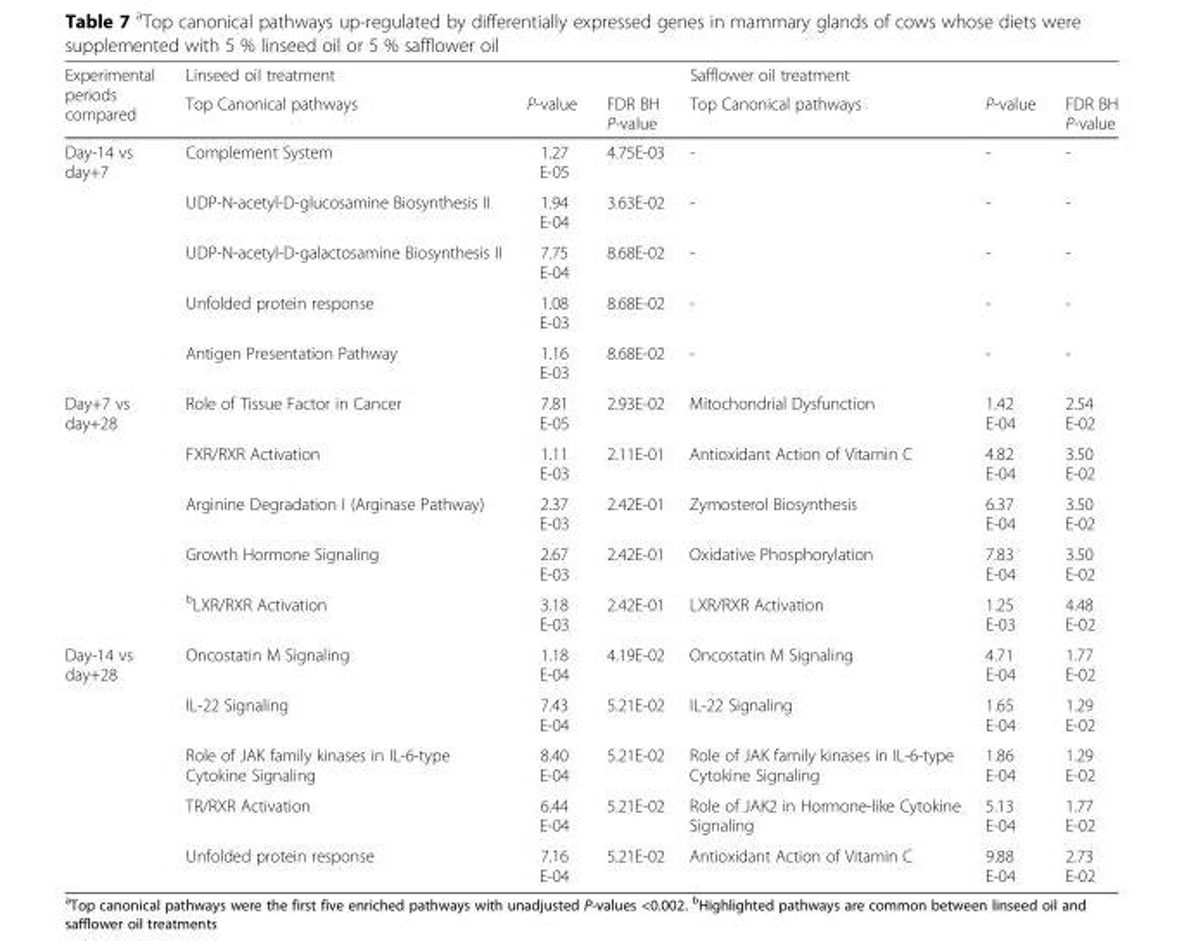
<table><thead><tr><td rowspan="2">Experimental periods compared</td><td rowspan="2">Linseed oil treatment Top Canonical pathways</td><td rowspan="2">P-value</td><td rowspan="2">FDR BH P-value</td><td rowspan="2">Safflower oil treatment Top Canonical pathways</td><td rowspan="2">P-value</td><td rowspan="2">FDR BH P-value</td></tr><tr></tr></thead><tbody><tr><td rowspan="5">Day-14 vs day+7</td><td>Complement System</td><td>1.27 E-05</td><td>4.75E-03</td><td>-</td><td>-</td><td>-</td></tr><tr><td>UDP-N-acetyl-D-glucosamine Biosynthesis II</td><td>1.94 E-04</td><td>3.63E-02</td><td>-</td><td>-</td><td>-</td></tr><tr><td>UDP-N-acetyl-D-galactosamine Biosynthesis II</td><td>7.75 E-04</td><td>8.68E-02</td><td>-</td><td>-</td><td>-</td></tr><tr><td>Unfolded protein response</td><td>1.08 E-03</td><td>8.68E-02</td><td>-</td><td>-</td><td>-</td></tr><tr><td>Antigen Presentation Pathway</td><td>1.16 E-03</td><td>8.68E-02</td><td>-</td><td>-</td><td>-</td></tr><tr><td rowspan="5">Day+7 vs day+28</td><td>Role of Tissue Factor in Cancer</td><td>7.81 E-05</td><td>2.93E-02</td><td>Mitochondrial Dysfunction</td><td>1.42 E-04</td><td>2.54 E-02</td></tr><tr><td>FXR/RXR Activation</td><td>1.11 E-03</td><td>2.11E-01</td><td>Antioxidant Action of Vitamin C</td><td>4.82 E-04</td><td>3.50 E-02</td></tr><tr><td>Arginine Degradation I (Arginase Pathway)</td><td>2.37 E-03</td><td>2.42E-01</td><td>Zymosterol Biosynthesis</td><td>6.37 E-04</td><td>3.50 E-02</td></tr><tr><td>Growth Hormone Signaling</td><td>2.67 E-03</td><td>2.42E-01</td><td>Oxidative Phosphorylation</td><td>7.83 E-04</td><td>3.50 E-02</td></tr><tr><td><sup>b</sup>LXR/RXR Activation</td><td>3.18 E-03</td><td>2.42E-01</td><td>LXR/RXR Activation</td><td>1.25 E-03</td><td>4.48 E-02</td></tr><tr><td rowspan="5">Day-14 vs day+28</td><td>Oncostatin M Signaling</td><td>1.18 E-04</td><td>4.19E-02</td><td>Oncostatin M Signaling</td><td>4.71 E-04</td><td>1.77 E-02</td></tr><tr><td>IL-22 Signaling</td><td>7.43 E-04</td><td>5.21E-02</td><td>IL-22 Signaling</td><td>1.65 E-04</td><td>1.29 E-02</td></tr><tr><td>Role of JAK family kinases in IL-6-type Cytokine Signaling</td><td>8.40 E-04</td><td>5.21E-02</td><td>Role of JAK family kinases in IL-6-type Cytokine Signaling</td><td>1.86 E-04</td><td>1.29 E-02</td></tr><tr><td>TR/RXR Activation</td><td>6.44 E-04</td><td>5.21E-02</td><td>Role of JAK2 in Hormone-like Cytokine Signaling</td><td>5.13 E-04</td><td>1.77 E-02</td></tr><tr><td>Unfolded protein response</td><td>7.16 E-04</td><td>5.21E-02</td><td>Antioxidant Action of Vitamin C</td><td>9.88 E-04</td><td>2.73 E-02</td></tr></tbody></table>